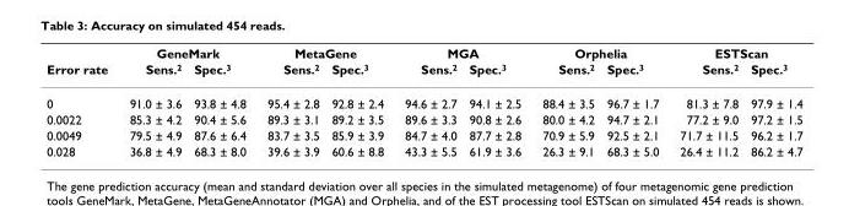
<table><thead><tr><td rowspan="2">Error rate</td><td colspan="2">GeneMark</td><td colspan="2">MetaGene</td><td colspan="2">MGA</td><td colspan="2">Orphelia</td><td colspan="2">ESTScan</td></tr><tr><td>Sens.<sup>2</sup></td><td>Spec.<sup>3</sup></td><td>Sens.<sup>2</sup></td><td>Spec.<sup>3</sup></td><td>Sens.<sup>2</sup></td><td>Spec.<sup>3</sup></td><td>Sens.<sup>2</sup></td><td>Spec.<sup>3</sup></td><td>Sens.<sup>2</sup></td><td>Spec.<sup>3</sup></td></tr></thead><tbody><tr><td>0</td><td>91.0 ± 3.6</td><td>93.8 ± 4.8</td><td>95.4 ± 2.8</td><td>92.8 ± 2.4</td><td>94.6 ± 2.7</td><td>94.1 ± 2.5</td><td>88.4 ± 3.5</td><td>96.7 ± 1.7</td><td>81.3 ± 7.8</td><td>97.9 ± 1.4</td></tr><tr><td>0.0022</td><td>85.3 ± 4.2</td><td>90.4 ± 5.6</td><td>89.3 ± 3.1</td><td>89.2 ± 3.5</td><td>89.6 ± 3.3</td><td>90.8 ± 2.6</td><td>80.0 ± 4.2</td><td>94.7 ± 2.1</td><td>77.2 ± 9.0</td><td>97.2 ± 1.5</td></tr><tr><td>0.0049</td><td>79.5 ± 4.9</td><td>87.6 ± 6.4</td><td>83.7 ± 3.5</td><td>85.9 ± 3.9</td><td>84.7 ± 4.0</td><td>87.7 ± 2.8</td><td>70.9 ± 5.9</td><td>92.5 ± 2.1</td><td>71.7 ± 11.5</td><td>96.2 ± 1.7</td></tr><tr><td>0.028</td><td>36.8 ± 4.9</td><td>68.3 ± 8.0</td><td>39.6 ± 3.9</td><td>60.6 ± 8.8</td><td>43.3 ± 5.5</td><td>61.9 ± 3.6</td><td>26.3 ± 9.1</td><td>68.3 ± 5.0</td><td>26.4 ± 11.2</td><td>86.2 ± 4.7</td></tr></tbody></table>